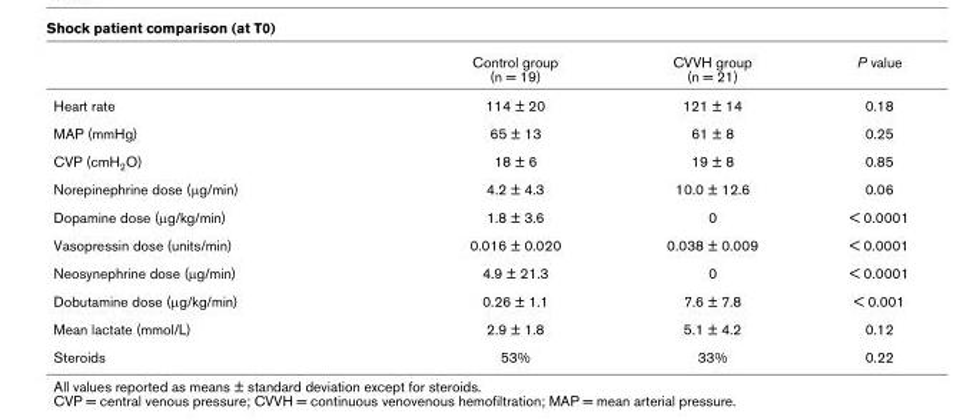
<table><thead><tr><td></td><td>Control group (n = 19)</td><td>CVVH group (n = 21)</td><td>P value</td></tr></thead><tbody><tr><td>Heart rate</td><td>114 ± 20</td><td>121 ± 14</td><td>0.18</td></tr><tr><td>MAP (mmHg)</td><td>65 ± 13</td><td>61 ± 8</td><td>0.25</td></tr><tr><td>CVP (cmH<sub>2</sub>O)</td><td>18 ± 6</td><td>19 ± 8</td><td>0.85</td></tr><tr><td>Norepinephrine dose (μg/min)</td><td>4.2 ± 4.3</td><td>10.0 ± 12.6</td><td>0.06</td></tr><tr><td>Dopamine dose (μg/kg/min)</td><td>1.8 ± 3.6</td><td>0</td><td>&lt; 0.0001</td></tr><tr><td>Vasopressin dose (units/min)</td><td>0.016 ± 0.020</td><td>0.038 ± 0.009</td><td>&lt; 0.0001</td></tr><tr><td>Neosynephrine dose (μg/min)</td><td>4.9 ± 21.3</td><td>0</td><td>&lt; 0.0001</td></tr><tr><td>Dobutamine dose (μg/kg/min)</td><td>0.26 ± 1.1</td><td>7.6 ± 7.8</td><td>&lt; 0.001</td></tr><tr><td>Mean lactate (mmol/L)</td><td>2.9 ± 1.8</td><td>5.1 ± 4.2</td><td>0.12</td></tr><tr><td>Steroids</td><td>53%</td><td>33%</td><td>0.22</td></tr></tbody></table>